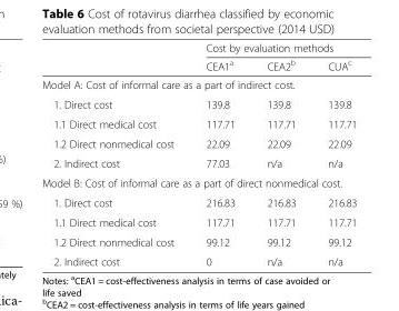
<table><thead><tr><td rowspan="2"></td><td colspan="3">Cost by evaluation methods</td></tr><tr><td>CEA1<sup>a</sup></td><td>CEA2<sup>b</sup></td><td>CUA<sup>c</sup></td></tr></thead><tbody><tr><td colspan="4">Model A: Cost of informal care as a part of indirect cost.</td></tr><tr><td>1. Direct cost</td><td>139.8</td><td>139.8</td><td>139.8</td></tr><tr><td>1.1 Direct medical cost</td><td>117.71</td><td>117.71</td><td>117.71</td></tr><tr><td>1.2 Direct nonmedical cost</td><td>22.09</td><td>22.09</td><td>22.09</td></tr><tr><td>2. Indirect cost</td><td>77.03</td><td>n/a</td><td>n/a</td></tr><tr><td colspan="4">Model B: Cost of informal care as a part of direct nonmedical cost.</td></tr><tr><td>1. Direct cost</td><td>216.83</td><td>216.83</td><td>216.83</td></tr><tr><td>1.1 Direct medical cost</td><td>117.71</td><td>117.71</td><td>117.71</td></tr><tr><td>1.2 Direct nonmedical cost</td><td>99.12</td><td>99.12</td><td>99.12</td></tr><tr><td>2. Indirect cost</td><td>0</td><td>n/a</td><td>n/a</td></tr></tbody></table>